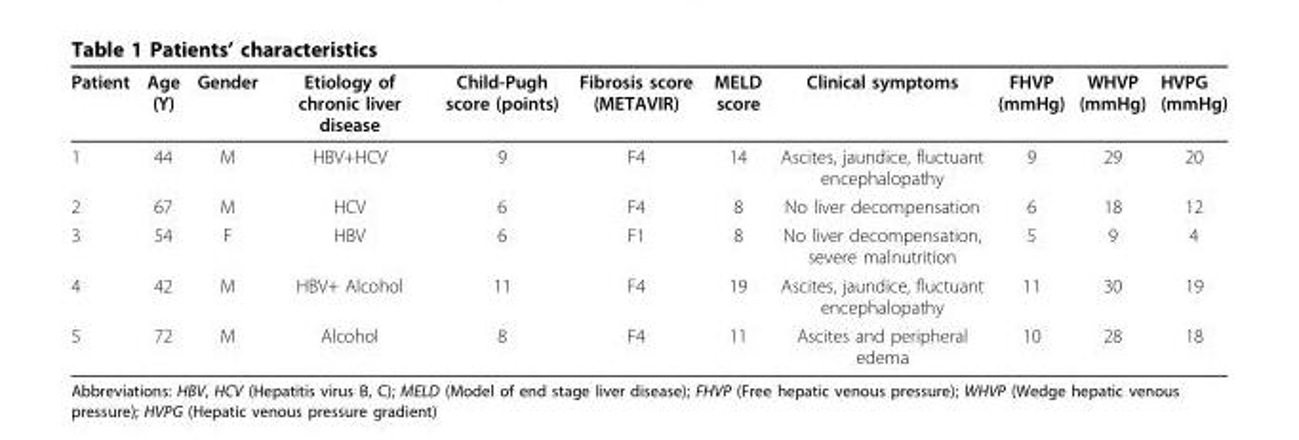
<table><thead><tr><td>Patient</td><td>Age (Y)</td><td>Gender</td><td>Etiology of chronic liver disease</td><td>Child-Pugh score (points)</td><td>Fibrosis score (METAVIR)</td><td>MELD score</td><td>Clinical symptoms</td><td>FHVP (mmHg)</td><td>WHVP (mmHg)</td><td>HVPG (mmHg)</td></tr></thead><tbody><tr><td>1</td><td>44</td><td>M</td><td>HBV+HCV</td><td>9</td><td>F4</td><td>14</td><td>Ascites, jaundice, fluctuant encephalopathy</td><td>9</td><td>29</td><td>20</td></tr><tr><td>2</td><td>67</td><td>M</td><td>HCV</td><td>6</td><td>F4</td><td>8</td><td>No liver decompensation</td><td>6</td><td>18</td><td>12</td></tr><tr><td>3</td><td>54</td><td>F</td><td>HBV</td><td>6</td><td>F1</td><td>8</td><td>No liver decompensation, severe malnutrition</td><td>5</td><td>9</td><td>4</td></tr><tr><td>4</td><td>42</td><td>M</td><td>HBV+ Alcohol</td><td>11</td><td>F4</td><td>19</td><td>Ascites, jaundice, fluctuant encephalopathy</td><td>11</td><td>30</td><td>19</td></tr><tr><td>5</td><td>72</td><td>M</td><td>Alcohol</td><td>8</td><td>F4</td><td>11</td><td>Ascites and peripheral edema</td><td>10</td><td>28</td><td>18</td></tr></tbody></table>